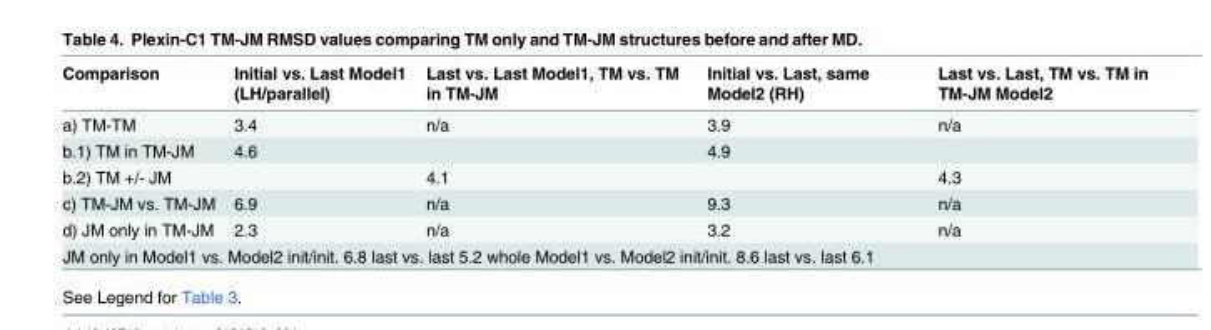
<table><thead><tr><td>Comparison</td><td>Initial vs. Last Model1 (LH/parallel)</td><td>Last vs. Last Model1, TM vs. TM in TM-JM</td><td>Initial vs. Last, same Model2 (RH)</td><td>Last vs. Last, TM vs. TM in TM-JM Model2</td></tr></thead><tbody><tr><td>a) TM-TM</td><td>3.4</td><td>n/a</td><td>3.9</td><td>n/a</td></tr><tr><td>b.1) TM in TM-JM</td><td>4.6</td><td></td><td>4.9</td><td></td></tr><tr><td>b.2) TM +/- JM</td><td></td><td>4.1</td><td></td><td>4.3</td></tr><tr><td>c) TM-JM vs. TM-JM</td><td>6.9</td><td>n/a</td><td>9.3</td><td>n/a</td></tr><tr><td>d) JM only in TM-JM</td><td>2.3</td><td>n/a</td><td>3.2</td><td>n/a</td></tr><tr><td colspan="5">JM only in Model1 vs. Model2 init/init. 6.8 last vs. last 5.2 whole Model1 vs. Model2 init/init. 8.6 last vs. last 6.1</td></tr></tbody></table>